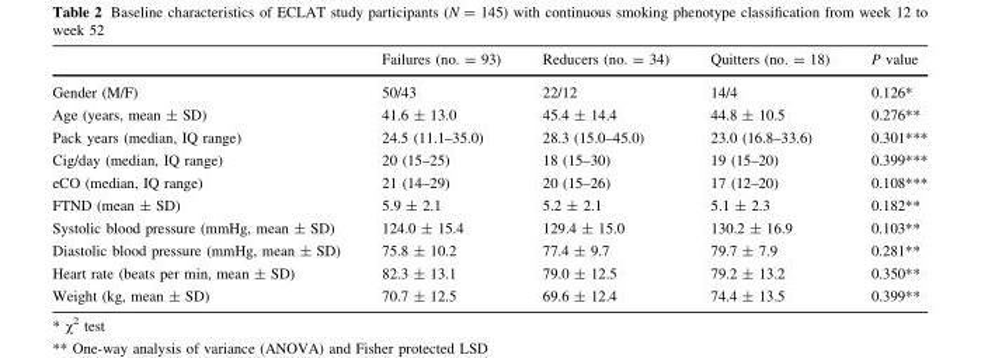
<table><thead><tr><td></td><td>Failures (no. = 93)</td><td>Reducers (no. = 34)</td><td>Quitters (no. = 18)</td><td>P value</td></tr></thead><tbody><tr><td>Gender (M/F)</td><td>50/43</td><td>22/12</td><td>14/4</td><td>0.126*</td></tr><tr><td>Age (years, mean ± SD)</td><td>41.6 ± 13.0</td><td>45.4 ± 14.4</td><td>44.8 ± 10.5</td><td>0.276**</td></tr><tr><td>Pack years (median, IQ range)</td><td>24.5 (11.1–35.0)</td><td>28.3 (15.0–45.0)</td><td>23.0 (16.8–33.6)</td><td>0.301***</td></tr><tr><td>Cig/day (median, IQ range)</td><td>20 (15–25)</td><td>18 (15–30)</td><td>19 (15–20)</td><td>0.399***</td></tr><tr><td>eCO (median, IQ range)</td><td>21 (14–29)</td><td>20 (15–26)</td><td>17 (12–20)</td><td>0.108***</td></tr><tr><td>FTND (mean ± SD)</td><td>5.9 ± 2.1</td><td>5.2 ± 2.1</td><td>5.1 ± 2.3</td><td>0.182**</td></tr><tr><td>Systolic blood pressure (mmHg, mean ± SD)</td><td>124.0 ± 15.4</td><td>129.4 ± 15.0</td><td>130.2 ± 16.9</td><td>0.103**</td></tr><tr><td>Diastolic blood pressure (mmHg, mean ± SD)</td><td>75.8 ± 10.2</td><td>77.4 ± 9.7</td><td>79.7 ± 7.9</td><td>0.281**</td></tr><tr><td>Heart rate (beats per min, mean ± SD)</td><td>82.3 ± 13.1</td><td>79.0 ± 12.5</td><td>79.2 ± 13.2</td><td>0.350**</td></tr><tr><td>Weight (kg, mean ± SD)</td><td>70.7 ± 12.5</td><td>69.6 ± 12.4</td><td>74.4 ± 13.5</td><td>0.399**</td></tr></tbody></table>